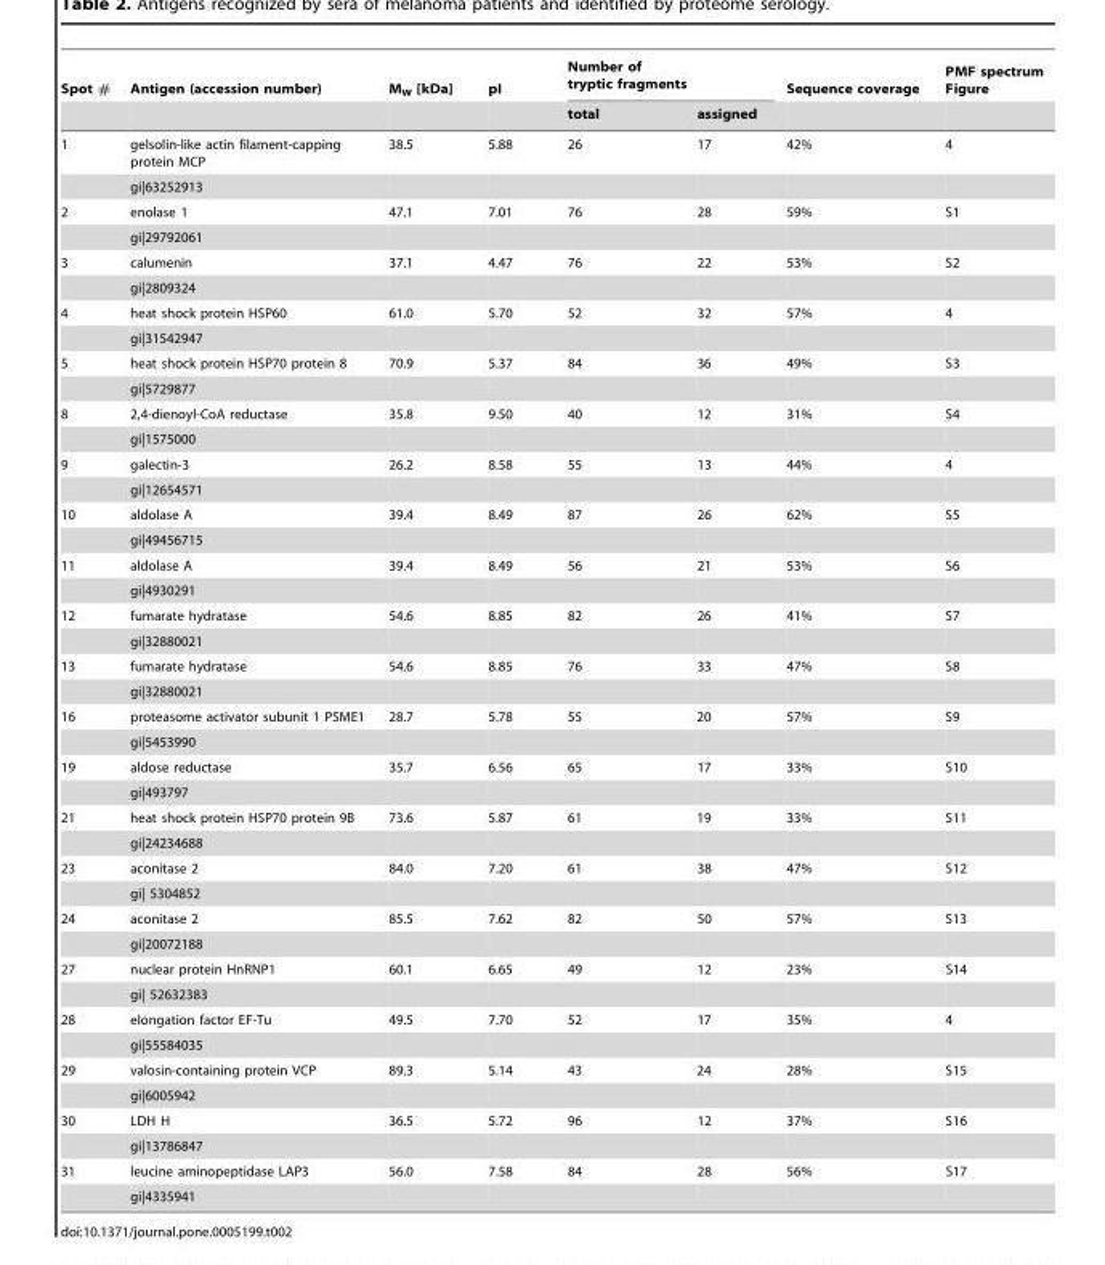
<table><thead><tr><td rowspan="2">Spot #</td><td rowspan="2">Antigen (accession number)</td><td rowspan="2">M<sub>W</sub> [kDa]</td><td rowspan="2">pI</td><td colspan="2">Number of tryptic fragments</td><td rowspan="2">Sequence coverage</td><td rowspan="2">PMF spectrum Figure</td></tr><tr><td>total</td><td>assigned</td></tr></thead><tbody><tr><td rowspan="2">1</td><td>gelsolin-like actin filament-capping protein MCP</td><td>38.5</td><td>5.88</td><td>26</td><td>17</td><td>42%</td><td>4</td></tr><tr><td>gi|63252913</td><td></td><td></td><td></td><td></td><td></td><td></td></tr><tr><td rowspan="2">2</td><td>enolase 1</td><td>47.1</td><td>7.01</td><td>76</td><td>28</td><td>59%</td><td>S1</td></tr><tr><td>gi|29792061</td><td></td><td></td><td></td><td></td><td></td><td></td></tr><tr><td rowspan="2">3</td><td>calumenin</td><td>37.1</td><td>4.47</td><td>76</td><td>22</td><td>53%</td><td>S2</td></tr><tr><td>gi|2809324</td><td></td><td></td><td></td><td></td><td></td><td></td></tr><tr><td rowspan="2">4</td><td>heat shock protein HSP60</td><td>61.0</td><td>5.70</td><td>52</td><td>32</td><td>57%</td><td>4</td></tr><tr><td>gi|31542947</td><td></td><td></td><td></td><td></td><td></td><td></td></tr><tr><td rowspan="2">5</td><td>heat shock protein HSP70 protein 8</td><td>70.9</td><td>5.37</td><td>84</td><td>36</td><td>49%</td><td>S3</td></tr><tr><td>gi|5729877</td><td></td><td></td><td></td><td></td><td></td><td></td></tr><tr><td rowspan="2">8</td><td>2,4-dienoyl-CoA reductase</td><td>35.8</td><td>9.50</td><td>40</td><td>12</td><td>31%</td><td>S4</td></tr><tr><td>gi|1575000</td><td></td><td></td><td></td><td></td><td></td><td></td></tr><tr><td rowspan="2">9</td><td>galectin-3</td><td>26.2</td><td>8.58</td><td>55</td><td>13</td><td>44%</td><td>4</td></tr><tr><td>gi|12654571</td><td></td><td></td><td></td><td></td><td></td><td></td></tr><tr><td rowspan="2">10</td><td>aldolase A</td><td>39.4</td><td>8.49</td><td>87</td><td>26</td><td>62%</td><td>S5</td></tr><tr><td>gi|49456715</td><td></td><td></td><td></td><td></td><td></td><td></td></tr><tr><td rowspan="2">11</td><td>aldolase A</td><td>39.4</td><td>8.49</td><td>56</td><td>21</td><td>53%</td><td>S6</td></tr><tr><td>gi|4930291</td><td></td><td></td><td></td><td></td><td></td><td></td></tr><tr><td rowspan="2">12</td><td>fumarate hydratase</td><td>54.6</td><td>8.85</td><td>82</td><td>26</td><td>41%</td><td>S7</td></tr><tr><td>gi|32880021</td><td></td><td></td><td></td><td></td><td></td><td></td></tr><tr><td rowspan="2">13</td><td>fumarate hydratase</td><td>54.6</td><td>8.85</td><td>76</td><td>33</td><td>47%</td><td>S8</td></tr><tr><td>gi|32880021</td><td></td><td></td><td></td><td></td><td></td><td></td></tr><tr><td rowspan="2">16</td><td>proteasome activator subunit 1 PSME1</td><td>28.7</td><td>5.78</td><td>55</td><td>20</td><td>57%</td><td>S9</td></tr><tr><td>gi|5453990</td><td></td><td></td><td></td><td></td><td></td><td></td></tr><tr><td rowspan="2">19</td><td>aldose reductase</td><td>35.7</td><td>6.56</td><td>65</td><td>17</td><td>33%</td><td>S10</td></tr><tr><td>gi|493797</td><td></td><td></td><td></td><td></td><td></td><td></td></tr><tr><td rowspan="2">21</td><td>heat shock protein HSP70 protein 9B</td><td>73.6</td><td>5.87</td><td>61</td><td>19</td><td>33%</td><td>S11</td></tr><tr><td>gi|24234688</td><td></td><td></td><td></td><td></td><td></td><td></td></tr><tr><td rowspan="2">23</td><td>aconitase 2</td><td>84.0</td><td>7.20</td><td>61</td><td>38</td><td>47%</td><td>S12</td></tr><tr><td>gi| 5304852</td><td></td><td></td><td></td><td></td><td></td><td></td></tr><tr><td rowspan="2">24</td><td>aconitase 2</td><td>85.5</td><td>7.62</td><td>82</td><td>50</td><td>57%</td><td>S13</td></tr><tr><td>gi|20072188</td><td></td><td></td><td></td><td></td><td></td><td></td></tr><tr><td rowspan="2">27</td><td>nuclear protein HnRNP1</td><td>60.1</td><td>6.65</td><td>49</td><td>12</td><td>23%</td><td>S14</td></tr><tr><td>gi| 52632383</td><td></td><td></td><td></td><td></td><td></td><td></td></tr><tr><td rowspan="2">28</td><td>elongation factor EF-Tu</td><td>49.5</td><td>7.70</td><td>52</td><td>17</td><td>35%</td><td>4</td></tr><tr><td>gi|55584035</td><td></td><td></td><td></td><td></td><td></td><td></td></tr><tr><td rowspan="2">29</td><td>valosin-containing protein VCP</td><td>89.3</td><td>5.14</td><td>43</td><td>24</td><td>28%</td><td>S15</td></tr><tr><td>gi|6005942</td><td></td><td></td><td></td><td></td><td></td><td></td></tr><tr><td rowspan="2">30</td><td>LDH H</td><td>36.5</td><td>5.72</td><td>96</td><td>12</td><td>37%</td><td>S16</td></tr><tr><td>gi|13786847</td><td></td><td></td><td></td><td></td><td></td><td></td></tr><tr><td rowspan="2">31</td><td>leucine aminopeptidase LAP3</td><td>56.0</td><td>7.58</td><td>84</td><td>28</td><td>56%</td><td>S17</td></tr><tr><td>gi|4335941</td><td></td><td></td><td></td><td></td><td></td><td></td></tr></tbody></table>